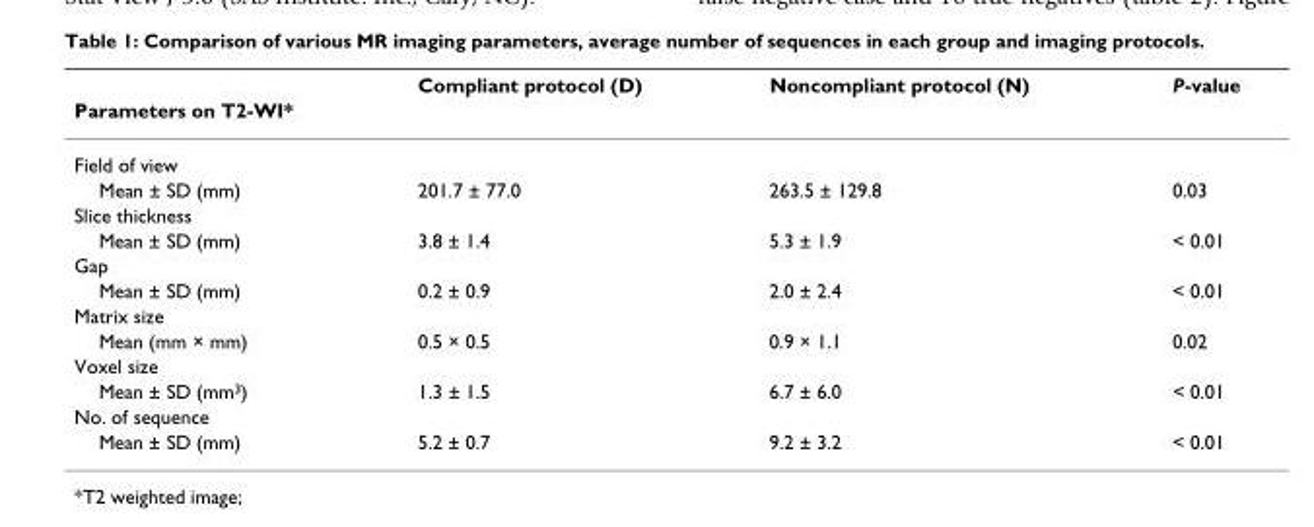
<table><thead><tr><td rowspan="2">Parameters on T2-WI*</td><td rowspan="2">Compliant protocol (D)</td><td rowspan="2">Noncompliant protocol (N)</td><td rowspan="2">P-value</td></tr><tr></tr></thead><tbody><tr><td colspan="4">Field of view</td></tr><tr><td>Mean ± SD (mm)</td><td>201.7 ± 77.0</td><td>263.5 ± 129.8</td><td>0.03</td></tr><tr><td colspan="4">Slice thickness</td></tr><tr><td>Mean ± SD (mm)</td><td>3.8 ± 1.4</td><td>5.3 ± 1.9</td><td>&lt; 0.01</td></tr><tr><td colspan="4">Gap</td></tr><tr><td>Mean ± SD (mm)</td><td>0.2 ± 0.9</td><td>2.0 ± 2.4</td><td>&lt; 0.01</td></tr><tr><td colspan="4">Matrix size</td></tr><tr><td>Mean (mm × mm)</td><td>0.5 × 0.5</td><td>0.9 × 1.1</td><td>0.02</td></tr><tr><td colspan="4">Voxel size</td></tr><tr><td>Mean ± SD (mm<sup>3</sup>)</td><td>1.3 ± 1.5</td><td>6.7 ± 6.0</td><td>&lt; 0.01</td></tr><tr><td colspan="4">No. of sequence</td></tr><tr><td>Mean ± SD (mm)</td><td>5.2 ± 0.7</td><td>9.2 ± 3.2</td><td>&lt; 0.01</td></tr></tbody></table>